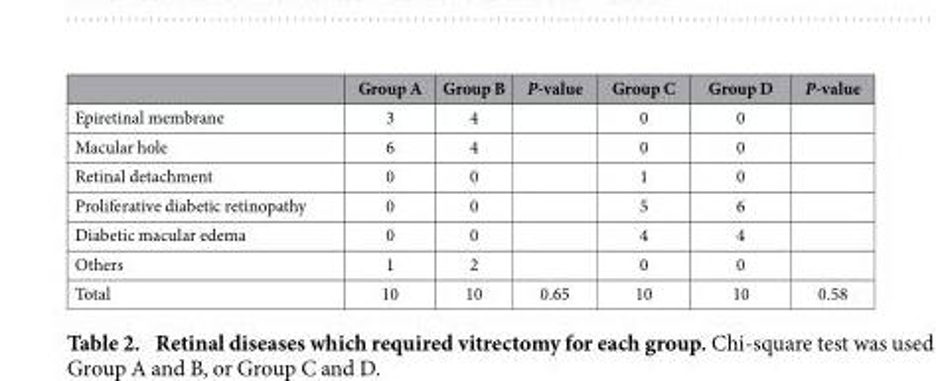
<table><thead><tr><td></td><td>Group A</td><td>Group B</td><td>P-value</td><td>Group C</td><td>Group D</td><td>P-value</td></tr></thead><tbody><tr><td>Epiretinal membrane</td><td>3</td><td>4</td><td></td><td>0</td><td>0</td><td></td></tr><tr><td>Macular hole</td><td>6</td><td>4</td><td></td><td>0</td><td>0</td><td></td></tr><tr><td>Retinal detachment</td><td>0</td><td>0</td><td></td><td>1</td><td>0</td><td></td></tr><tr><td>Proliferative diabetic retinopathy</td><td>0</td><td>0</td><td></td><td>5</td><td>6</td><td></td></tr><tr><td>Diabetic macular edema</td><td>0</td><td>0</td><td></td><td>4</td><td>4</td><td></td></tr><tr><td>Others</td><td>1</td><td>2</td><td></td><td>0</td><td>0</td><td></td></tr><tr><td>Total</td><td>10</td><td>10</td><td>0.65</td><td>10</td><td>10</td><td>0.58</td></tr></tbody></table>